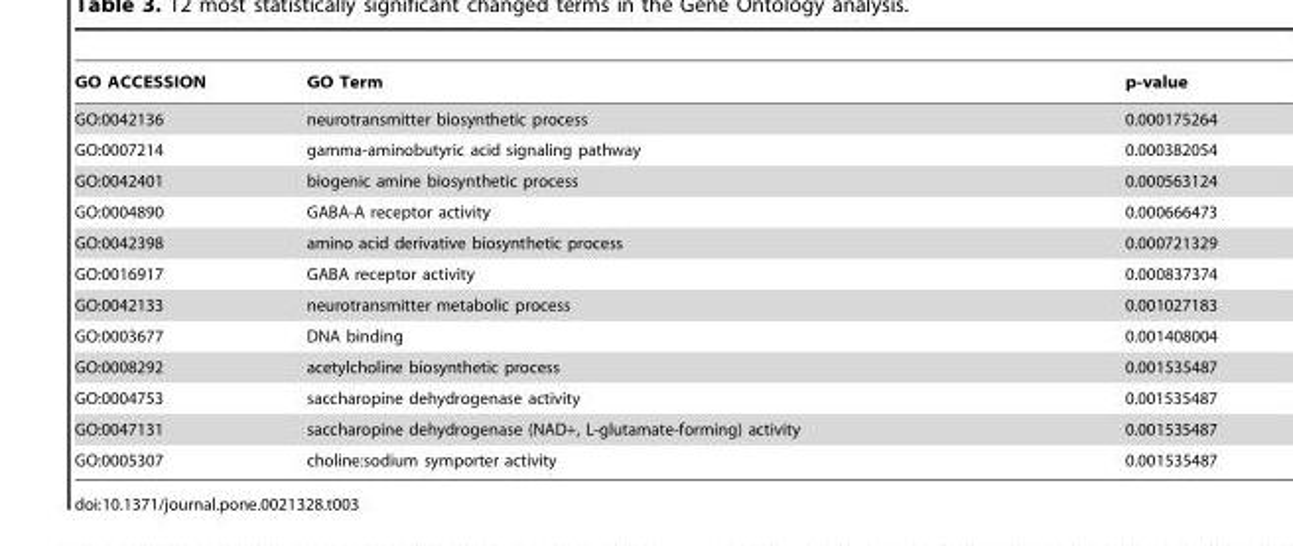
<table><thead><tr><td>GO ACCESSION</td><td>GO Term</td><td>p-value</td></tr></thead><tbody><tr><td>GO:0042136</td><td>neurotransmitter biosynthetic process</td><td>0.000175264</td></tr><tr><td>GO:0007214</td><td>gamma-aminobutyric acid signaling pathway</td><td>0.000382054</td></tr><tr><td>GO:0042401</td><td>biogenic amine biosynthetic process</td><td>0.000563124</td></tr><tr><td>GO:0004890</td><td>GABA-A receptor activity</td><td>0.000666473</td></tr><tr><td>GO:0042398</td><td>amino acid derivative biosynthetic process</td><td>0.000721329</td></tr><tr><td>GO:0016917</td><td>GABA receptor activity</td><td>0.000837374</td></tr><tr><td>GO:0042133</td><td>neurotransmitter metabolic process</td><td>0.001027183</td></tr><tr><td>GO:0003677</td><td>DNA binding</td><td>0.001408004</td></tr><tr><td>GO:0008292</td><td>acetylcholine biosynthetic process</td><td>0.001535487</td></tr><tr><td>GO:0004753</td><td>saccharopine dehydrogenase activity</td><td>0.001535487</td></tr><tr><td>GO:0047131</td><td>saccharopine dehydrogenase (NAD+, L-glutamate-forming) activity</td><td>0.001535487</td></tr><tr><td>GO:0005307</td><td>choline:sodium symporter activity</td><td>0.001535487</td></tr></tbody></table>